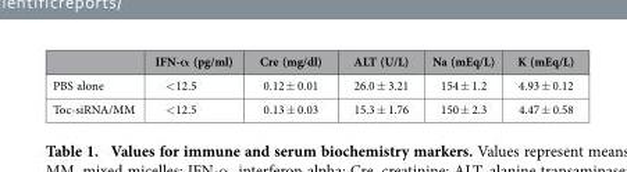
<table><thead><tr><td></td><td>IFN-α (pg/ml)</td><td>Cre (mg/dl)</td><td>ALT (U/L)</td><td>Na (mEq/L)</td><td>K (mEq/L)</td></tr></thead><tbody><tr><td>PBS alone</td><td>&lt; 12.5</td><td>0.12 ± 0.01</td><td>26.0 ± 3.21</td><td>154 ± 1.2</td><td>4.93 ± 0.12</td></tr><tr><td>Toc-siRNA/MM</td><td>&lt; 12.5</td><td>0.13 ± 0.03</td><td>15.3 ± 1.76</td><td>150 ± 2.3</td><td>4.47 ± 0.58</td></tr></tbody></table>